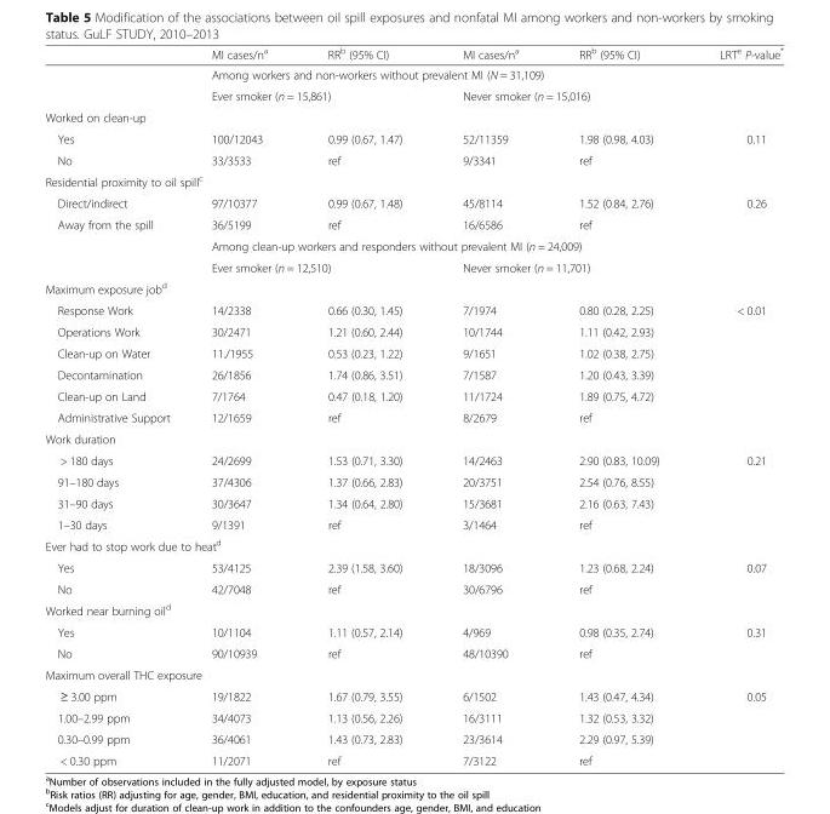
<table><thead><tr><td></td><td>MI cases/n<sup>a</sup></td><td>RR<sup>b</sup> (95% CI)</td><td>MI cases/n<sup>a</sup></td><td>RR<sup>b</sup> (95% CI)</td><td>LRT<sup>e</sup> P-value*</td></tr></thead><tbody><tr><td rowspan="2"></td><td colspan="4">Among workers and non-workers without prevalent MI (N = 31,109)</td><td rowspan="2"></td></tr><tr><td colspan="2">Ever smoker (n = 15,861)</td><td colspan="2">Never smoker (n = 15,016)</td></tr><tr><td colspan="6">Worked on clean-up</td></tr><tr><td>Yes</td><td>100/12043</td><td>0.99 (0.67, 1.47)</td><td>52/11359</td><td>1.98 (0.98, 4.03)</td><td rowspan="2">0.11</td></tr><tr><td>No</td><td>33/3533</td><td>ref</td><td>9/3341</td><td>ref</td></tr><tr><td colspan="6">Residential proximity to oil spill<sup>c</sup></td></tr><tr><td>Direct/indirect</td><td>97/10377</td><td>0.99 (0.67, 1.48)</td><td>45/8114</td><td>1.52 (0.84, 2.76)</td><td rowspan="2">0.26</td></tr><tr><td rowspan="3">Away from the spill</td><td>36/5199</td><td>ref</td><td>16/6586</td><td>ref</td></tr><tr><td colspan="4">Among clean-up workers and responders without prevalent MI (n = 24,009)</td><td rowspan="2"></td></tr><tr><td colspan="2">Ever smoker (n = 12,510)</td><td colspan="2">Never smoker (n = 11,701)</td></tr><tr><td colspan="6">Maximum exposure job<sup>d</sup></td></tr><tr><td>Response Work</td><td>14/2338</td><td>0.66 (0.30, 1.45)</td><td>7/1974</td><td>0.80 (0.28, 2.25)</td><td rowspan="6">&lt; 0.01</td></tr><tr><td>Operations Work</td><td>30/2471</td><td>1.21 (0.60, 2.44)</td><td>10/1744</td><td>1.11 (0.42, 2.93)</td></tr><tr><td>Clean-up on Water</td><td>11./1955</td><td>0.53 (0.23, 1.22)</td><td>9/1651</td><td>1.02 (0.38, 2.75)</td></tr><tr><td>Decontamination</td><td>26/1856</td><td>1.74 (0.86, 3.51)</td><td>7/1587</td><td>1.20 (0.43, 3.39)</td></tr><tr><td>Clean-up on Land</td><td>7/1764</td><td>0.47 (0.18, 1.20)</td><td>11/1724</td><td>1.89 (0.75, 4.72)</td></tr><tr><td>Administrative Support</td><td>12/1659</td><td>ref</td><td>8/2679</td><td>ref</td></tr><tr><td colspan="6">Work duration</td></tr><tr><td>&gt; 180 days</td><td>24/2699</td><td>1.53 (0.71, 3.30)</td><td>14/2463</td><td>2.90 (0.83, 10.09)</td><td rowspan="4">0.21</td></tr><tr><td>91–180 days</td><td>37/4306</td><td>1.37 (0.66, 2.83)</td><td>20/3751</td><td>2.54 (0.76, 8.55)</td></tr><tr><td>31–90 days</td><td>30/3647</td><td>1.34 (0.64, 2.80)</td><td>15/3681</td><td>2.16 (0.63, 7.43)</td></tr><tr><td>1–30 days</td><td>9/1391</td><td>ref</td><td>3/1464</td><td>ref</td></tr><tr><td colspan="6">Ever had to stop work due to heat<sup>d</sup></td></tr><tr><td>Yes</td><td>53/4125</td><td>2.39 (1.58, 3.60)</td><td>18/3096</td><td>1.23 (0.68, 2.24)</td><td rowspan="2">0.07</td></tr><tr><td>No</td><td>42/7048</td><td>ref</td><td>30/6796</td><td>ref</td></tr><tr><td colspan="6">Worked near burning oil<sup>d</sup></td></tr><tr><td>Yes</td><td>10/1104</td><td>1.11 (0.57, 2.14)</td><td>4/969</td><td>0.98 (0.35, 2.74)</td><td rowspan="2">0.31</td></tr><tr><td>No</td><td>90/10939</td><td>ref</td><td>48/10390</td><td>ref</td></tr><tr><td colspan="6">Maximum overall THC exposure</td></tr><tr><td>≥ 3.00 ppm</td><td>19/1822</td><td>1.67 (0.79, 3.55)</td><td>6/1502</td><td>1.43 (0.47, 4.34)</td><td rowspan="4">0.05</td></tr><tr><td>1.00–2.99 ppm</td><td>34/4073</td><td>1.13 (0.56, 2.26)</td><td>16/3111</td><td>1.32 (0.53, 3.32)</td></tr><tr><td>0.30–0.99 ppm</td><td>36/4061</td><td>1.43 (0.73, 2.83)</td><td>23/3614</td><td>2.29 (0.97, 5.39)</td></tr><tr><td>&lt; 0.30 ppm</td><td>11/2071</td><td>ref</td><td>7/3122</td><td>ref</td></tr></tbody></table>